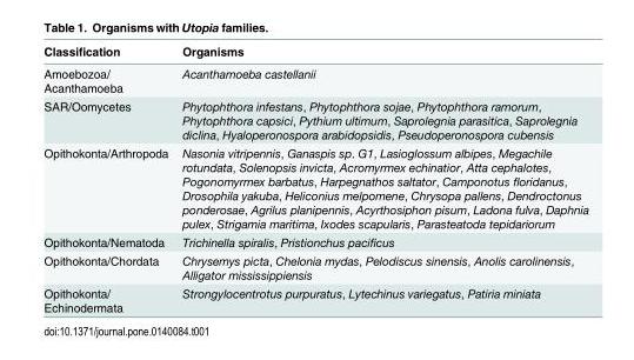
<table><thead><tr><td>Classification</td><td>Organisms</td></tr></thead><tbody><tr><td>Amoebozoa/ Acanthamoeba</td><td>Acanthamoeba castellanii</td></tr><tr><td>SAR/Oomycetes</td><td>Phytophthora infestans, Phytophthora sojae, Phytophthora ramorum, Phytophthora capsici, Pythium ultimum, Saprolegnia parasitica, Saprolegnia diclina, Hyaloperonospora arabidopsidis, Pseudoperonospora cubensis</td></tr><tr><td>Opithokonta/Arthropoda</td><td>Nasonia vitripennis, Ganaspis sp. G1, Lasioglossum albipes, Megachile rotundata, Solenopsis invicta, Acromyrmex echinatior, Atta cephalotes, Pogonomyrmex barbatus, Harpegnathos saltator, Camponotus floridanus, Drosophila yakuba, Heliconius melpomene, Chrysopa pallens, Dendroctonus ponderosae, Agrilus planipennis, Acyrthosiphon pisum, Ladona fulva, Daphnia pulex, Strigamia maritima, Ixodes scapularis, Parasteatoda tepidariorum</td></tr><tr><td>Opithokonta/Nematoda</td><td>Trichinella spiralis, Pristionchus pacificus</td></tr><tr><td>Opithokonta/Chordata</td><td>Chrysemys picta, Chelonia mydas, Pelodiscus sinensis, Anolis carolinensis, Alligator mississippiensis</td></tr><tr><td>Opithokonta/ Echinodermata</td><td>Strongylocentrotus purpuratus, Lytechinus variegatus, Patiria miniata</td></tr></tbody></table>